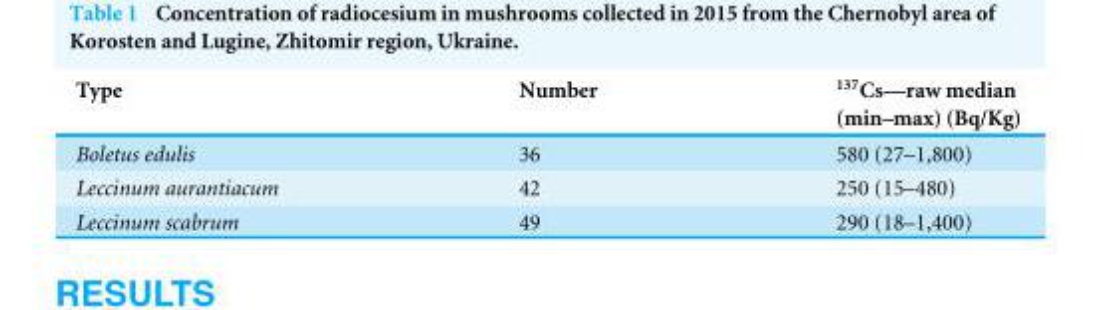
<table><thead><tr><td>Type</td><td>Number</td><td><sup>137</sup>Cs—raw median (min–max) (Bq/Kg)</td></tr></thead><tbody><tr><td>Boletus edulis</td><td>36</td><td>580 (27–1,800)</td></tr><tr><td>Leccinum aurantiacum</td><td>42</td><td>250 (15–480)</td></tr><tr><td>Leccinum scabrum</td><td>49</td><td>290 (18–1,400)</td></tr></tbody></table>